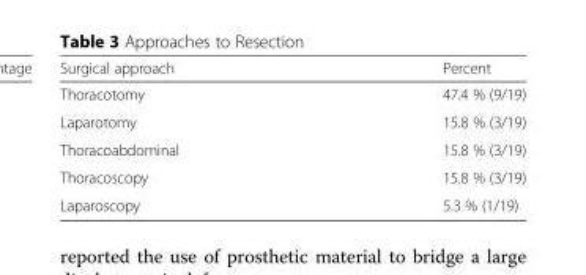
<table><thead><tr><td>Surgical approach</td><td>Percent</td></tr></thead><tbody><tr><td>Thoracotomy</td><td>47.4 % (9/19)</td></tr><tr><td>Laparotomy</td><td>15.8 % (3/19)</td></tr><tr><td>Thoracoabdominal</td><td>15.8 % (3/19)</td></tr><tr><td>Thoracoscopy</td><td>15.8 % (3/19)</td></tr><tr><td>Laparoscopy</td><td>5.3 % (1/19)</td></tr></tbody></table>